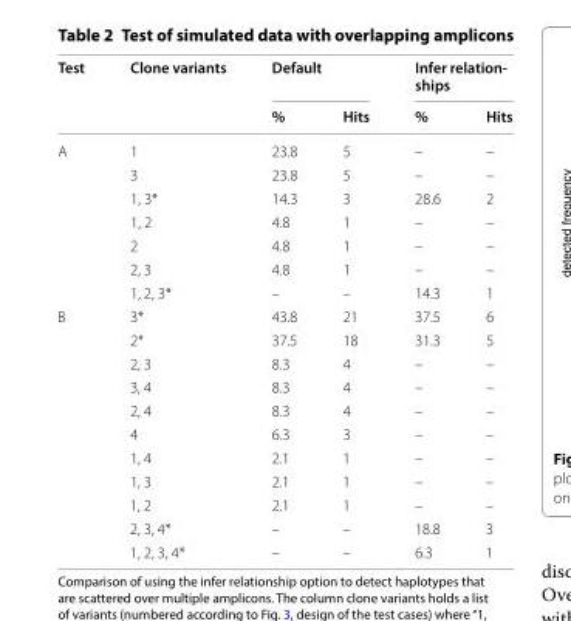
<table><thead><tr><td rowspan="2">Test</td><td rowspan="2">Clone variants</td><td colspan="2">Default</td><td colspan="2">Infer relation- ships</td></tr><tr><td>%</td><td>Hits</td><td>%</td><td>Hits</td></tr></thead><tbody><tr><td rowspan="7">A</td><td>1</td><td>23.8</td><td>5</td><td>–</td><td>–</td></tr><tr><td>3</td><td>23.8</td><td>5</td><td>–</td><td>–</td></tr><tr><td>1, 3*</td><td>14.3</td><td>3</td><td>28.6</td><td>2</td></tr><tr><td>1, 2</td><td>4.8</td><td>1</td><td>–</td><td>–</td></tr><tr><td>2</td><td>4.8</td><td>1</td><td>–</td><td>–</td></tr><tr><td>2, 3</td><td>4.8</td><td>1</td><td>–</td><td>–</td></tr><tr><td>1, 2, 3*</td><td>–</td><td>–</td><td>14.3</td><td>1</td></tr><tr><td rowspan="11">B</td><td>3*</td><td>43.8</td><td>21</td><td>37.5</td><td>6</td></tr><tr><td>2*</td><td>37.5</td><td>18</td><td>31.3</td><td>5</td></tr><tr><td>2, 3</td><td>8.3</td><td>4</td><td>–</td><td>–</td></tr><tr><td>3, 4</td><td>8.3</td><td>4</td><td>–</td><td>–</td></tr><tr><td>2, 4</td><td>8.3</td><td>4</td><td>–</td><td>–</td></tr><tr><td>4</td><td>6.3</td><td>3</td><td>–</td><td>–</td></tr><tr><td>1, 4</td><td>2.1</td><td>1</td><td>–</td><td>–</td></tr><tr><td>1, 3</td><td>2.1</td><td>1</td><td>–</td><td>–</td></tr><tr><td>1, 2</td><td>2.1</td><td>1</td><td>–</td><td>–</td></tr><tr><td>2, 3, 4*</td><td>–</td><td>–</td><td>18.8</td><td>3</td></tr><tr><td>1, 2, 3, 4*</td><td>–</td><td>–</td><td>6.3</td><td>1</td></tr></tbody></table>